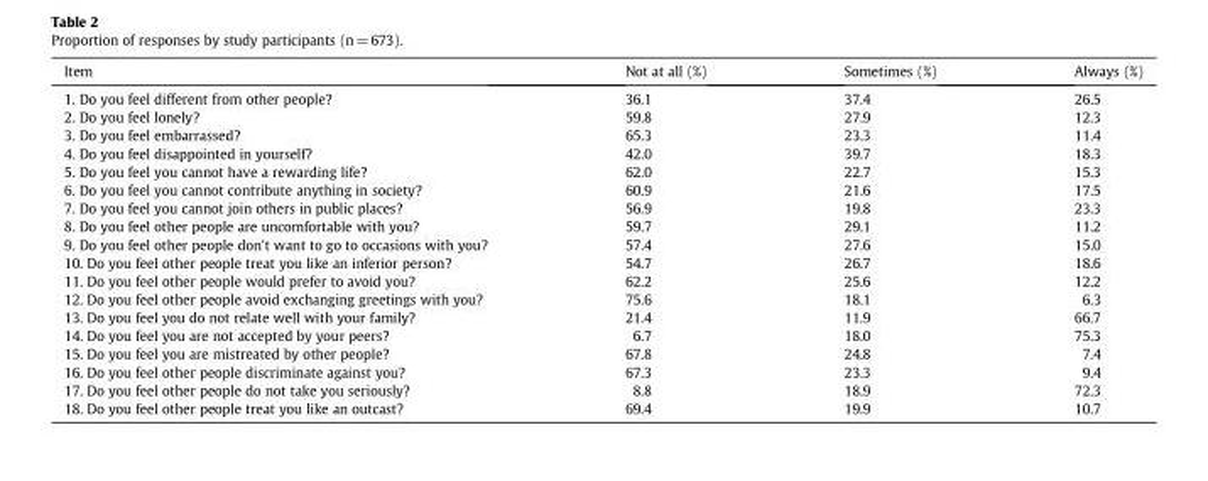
<table><thead><tr><td>Item</td><td>Not at all (%)</td><td>Sometimes (%)</td><td>Always (%)</td></tr></thead><tbody><tr><td>1. Do you feel different from other people?</td><td>36.1</td><td>37.4</td><td>26.5</td></tr><tr><td>2. Do you feel lonely?</td><td>59.8</td><td>27.9</td><td>12.3</td></tr><tr><td>3. Do you feel embarrassed?</td><td>65.3</td><td>23.3</td><td>11.4</td></tr><tr><td>4. Do you feel disappointed in yourself?</td><td>42.0</td><td>39.7</td><td>18.3</td></tr><tr><td>5. Do you feel you cannot have a rewarding life?</td><td>62.0</td><td>22.7</td><td>15.3</td></tr><tr><td>6. Do you feel you cannot contribute anything in society?</td><td>60.9</td><td>21.6</td><td>17.5</td></tr><tr><td>7. Do you feel you cannot join others in public places?</td><td>56.9</td><td>19.8</td><td>23.3</td></tr><tr><td>8. Do you feel other people are uncomfortable with you?</td><td>59.7</td><td>29.1</td><td>11.2</td></tr><tr><td>9. Do you feel other people don&#x27;t want to go to occasions with you?</td><td>57.4</td><td>27.6</td><td>15.0</td></tr><tr><td>10. Do you feel other people treat you like an inferior person?</td><td>54.7</td><td>26.7</td><td>18.6</td></tr><tr><td>11. Do you feel other people would prefer to avoid you?</td><td>62.2</td><td>25.6</td><td>12.2</td></tr><tr><td>12. Do you feel other people avoid exchanging greetings with you?</td><td>75.6</td><td>18.1</td><td>6.3</td></tr><tr><td>13. Do you feel you do not relate well with your family?</td><td>21.4</td><td>11.9</td><td>66.7</td></tr><tr><td>14. Do you feel you are not accepted by your peers?</td><td>6.7</td><td>18.0</td><td>75.3</td></tr><tr><td>15. Do you feel you are mistreated by other people?</td><td>67.8</td><td>24.8</td><td>7.4</td></tr><tr><td>16. Do you feel other people discriminate against you?</td><td>67.3</td><td>23.3</td><td>9.4</td></tr><tr><td>17. Do you feel other people do not take you seriously?</td><td>8.8</td><td>18.9</td><td>72.3</td></tr><tr><td>18. Do you feel other people treat you like an outcast?</td><td>69.4</td><td>19.9</td><td>10.7</td></tr></tbody></table>